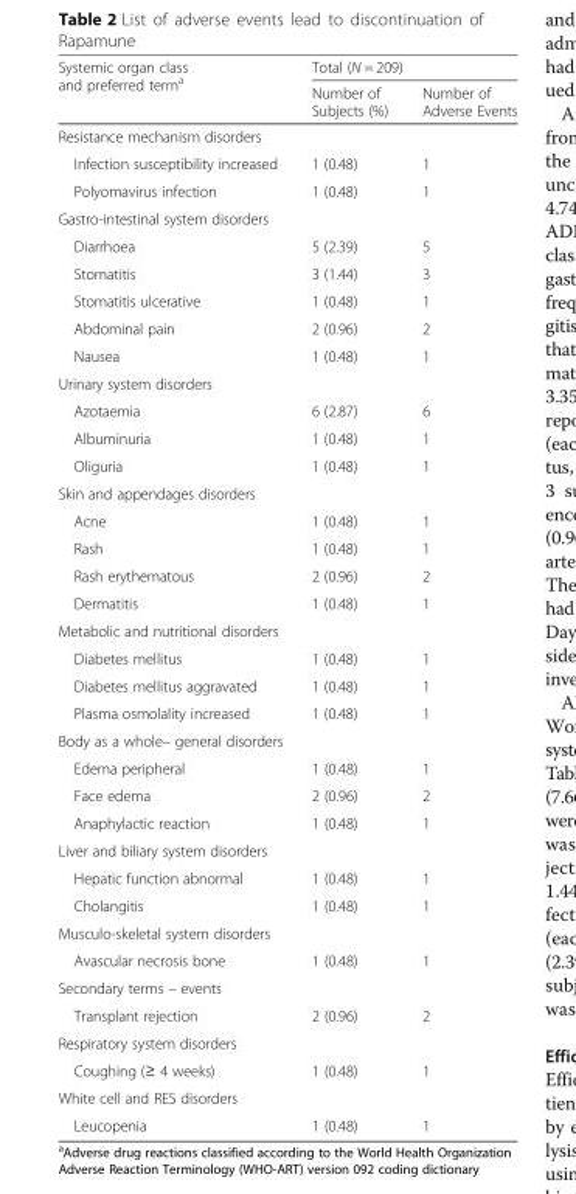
<table><thead><tr><td rowspan="2">Systemic organ class and preferred term<sup>a</sup></td><td colspan="2">Total (N = 209)</td></tr><tr><td>Number of Subjects (%)</td><td>Number of Adverse Events</td></tr></thead><tbody><tr><td colspan="3">Resistance mechanism disorders</td></tr><tr><td>Infection susceptibility increased</td><td>1 (0.48)</td><td>1</td></tr><tr><td>Polyomavirus infection</td><td>1 (0.48)</td><td>1</td></tr><tr><td colspan="3">Gastro-intestinal system disorders</td></tr><tr><td>Diarrhoea</td><td>5 (2.39)</td><td>5</td></tr><tr><td>Stomatitis</td><td>3 (1.44)</td><td>3</td></tr><tr><td>Stomatitis ulcerative</td><td>1 (0.48)</td><td>1</td></tr><tr><td>Abdominal pain</td><td>2 (0.96)</td><td>2</td></tr><tr><td>Nausea</td><td>1 (0.48)</td><td>1</td></tr><tr><td colspan="3">Urinary system disorders</td></tr><tr><td>Azotaemia</td><td>6 (2.87)</td><td>6</td></tr><tr><td>Albuminuria</td><td>1 (0.48)</td><td>1</td></tr><tr><td>Oliguria</td><td>1 (0.48)</td><td>1</td></tr><tr><td colspan="3">Skin and appendages disorders</td></tr><tr><td>Acne</td><td>1 (0.48)</td><td>1</td></tr><tr><td>Rash</td><td>1 (0.48)</td><td>1</td></tr><tr><td>Rash erythematous</td><td>2 (0.96)</td><td>2</td></tr><tr><td>Dermatitis</td><td>1 (0.48)</td><td>1</td></tr><tr><td colspan="3">Metabolic and nutritional disorders</td></tr><tr><td>Diabetes mellitus</td><td>1 (0.48)</td><td>1</td></tr><tr><td>Diabetes mellitus aggravated</td><td>1 (0.48)</td><td>1</td></tr><tr><td>Plasma osmolality increased</td><td>1 (0.48)</td><td>1</td></tr><tr><td colspan="3">Body as a whole– general disorders</td></tr><tr><td>Edema peripheral</td><td>1 (0.48)</td><td>1</td></tr><tr><td>Face edema</td><td>2 (0.96)</td><td>2</td></tr><tr><td>Anaphylactic reaction</td><td>1 (0.48)</td><td>1</td></tr><tr><td colspan="3">Liver and biliary system disorders</td></tr><tr><td>Hepatic function abnormal</td><td>1 (0.48)</td><td>1</td></tr><tr><td>Cholangitis</td><td>1 (0.48)</td><td>1</td></tr><tr><td colspan="3">Musculo-skeletal system disorders</td></tr><tr><td>Avascular necrosis bone</td><td>1 (0.48)</td><td>1</td></tr><tr><td colspan="3">Secondary terms – events</td></tr><tr><td>Transplant rejection</td><td>2 (0.96)</td><td>2</td></tr><tr><td colspan="3">Respiratory system disorders</td></tr><tr><td>Coughing (≥ 4 weeks)</td><td>1 (0.48)</td><td>1</td></tr><tr><td colspan="3">White cell and RES disorders</td></tr><tr><td>Leucopenia</td><td>1 (0.48)</td><td>1</td></tr></tbody></table>